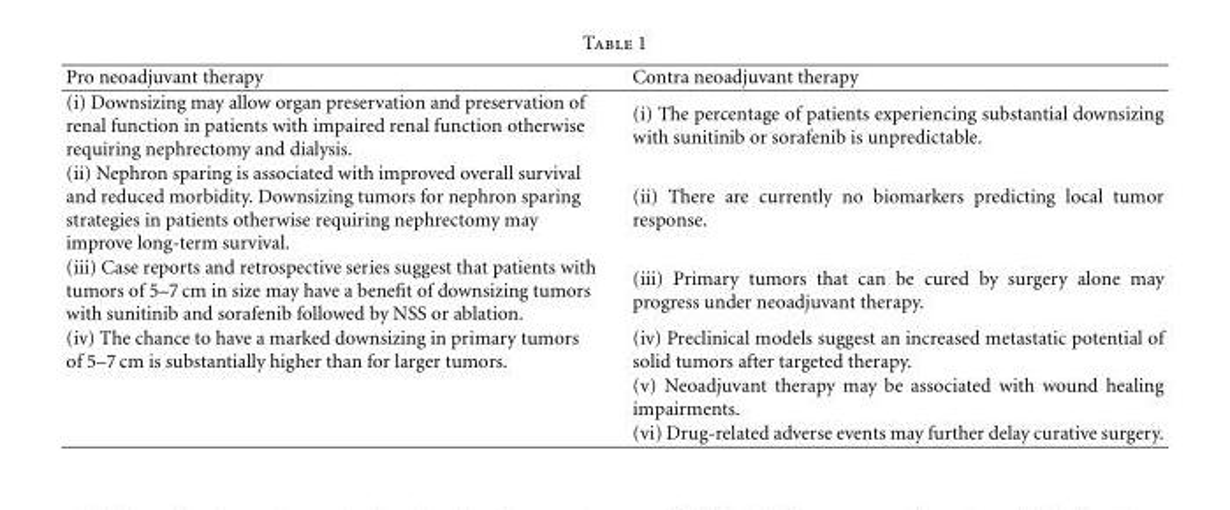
<table><thead><tr><td>Pro neoadjuvant therapy</td><td>Contra neoadjuvant therapy</td></tr></thead><tbody><tr><td>(i) Downsizing may allow organ preservation and preservation of renal function in patients with impaired renal function otherwise requiring nephrectomy and dialysis.</td><td>(i) The percentage of patients experiencing substantial downsizing with sunitinib or sorafenib is unpredictable.</td></tr><tr><td>(ii) Nephron sparing is associated with improved overall survival and reduced morbidity. Downsizing tumors for nephron sparing strategies in patients otherwise requiring nephrectomy may improve long-term survival.</td><td>(ii) There are currently no biomarkers predicting local tumor response.</td></tr><tr><td>(iii) Case reports and retrospective series suggest that patients with tumors of 5–7 cm in size may have a benefit of downsizing tumors with sunitinib and sorafenib followed by NSS or ablation.</td><td>(iii) Primary tumors that can be cured by surgery alone may progress under neoadjuvant therapy.</td></tr><tr><td rowspan="3">(iv) The chance to have a marked downsizing in primary tumors of 5–7 cm is substantially higher than for larger tumors.</td><td>(iv) Preclinical models suggest an increased metastatic potential of solid tumors after targeted therapy.</td></tr><tr><td>(v) Neoadjuvant therapy may be associated with wound healing impairments.</td></tr><tr><td>(vi) Drug-related adverse events may further delay curative surgery.</td></tr></tbody></table>